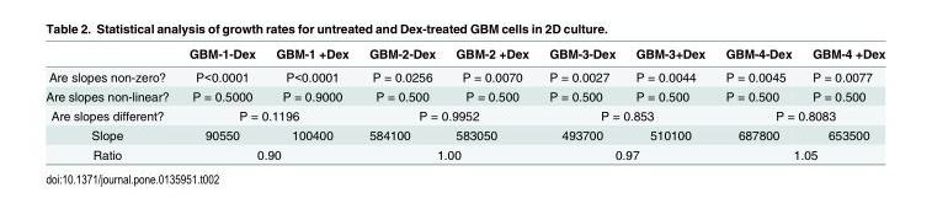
<table><thead><tr><td></td><td>GBM-1-Dex</td><td>GBM-1 +Dex</td><td>GBM-2-Dex</td><td>GBM-2 +Dex</td><td>GBM-3-Dex</td><td>GBM-3+Dex</td><td>GBM-4-Dex</td><td>GBM-4 +Dex</td></tr></thead><tbody><tr><td>Are slopes non-zero?</td><td>P&lt;0.0001</td><td>P&lt;0.0001</td><td>P = 0.0256</td><td>P = 0.0070</td><td>P = 0.0027</td><td>P = 0.0044</td><td>P = 0.0045</td><td>P = 0.0077</td></tr><tr><td>Are slopes non-linear?</td><td>P = 0.5000</td><td>P = 0.9000</td><td>P = 0.500</td><td>P = 0.500</td><td>P = 0.500</td><td>P = 0.500</td><td>P = 0.500</td><td>P = 0.500</td></tr><tr><td>Are slopes different?</td><td colspan="2">P = 0.1196</td><td colspan="2">P = 0.9952</td><td colspan="2">P = 0.853</td><td colspan="2">P = 0.8083</td></tr><tr><td>Slope</td><td>90550</td><td>100400</td><td>584100</td><td>583050</td><td>493700</td><td>510100</td><td>687800</td><td>653500</td></tr><tr><td>Ratio</td><td colspan="2">0.90</td><td colspan="2">1.00</td><td colspan="2">0.97</td><td colspan="2">1.05</td></tr></tbody></table>